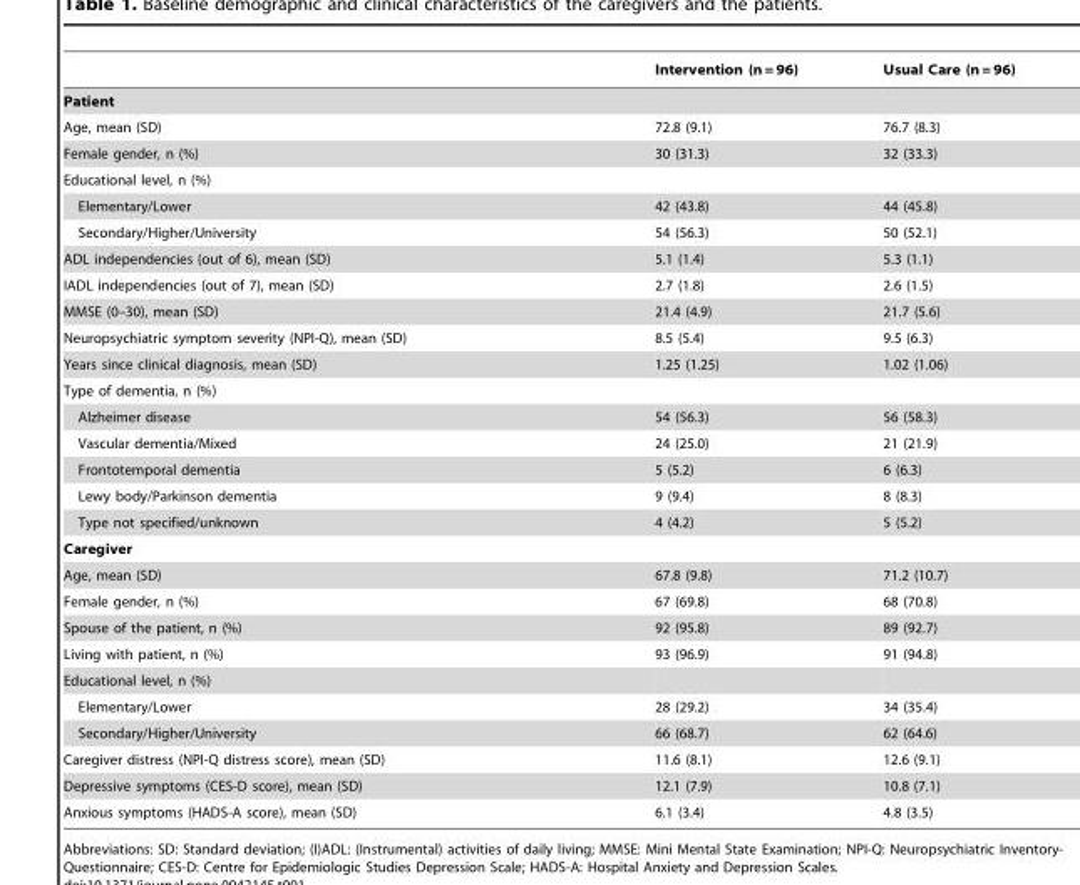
<table><thead><tr><td></td><td>Intervention (n = 96)</td><td>Usual Care (n = 96)</td></tr></thead><tbody><tr><td colspan="3">Patient</td></tr><tr><td>Age, mean (SD)</td><td>72.8 (9.1)</td><td>76.7 (8.3)</td></tr><tr><td>Female gender, n (%)</td><td>30 (31.3)</td><td>32 (33.3)</td></tr><tr><td colspan="3">Educational level, n (%)</td></tr><tr><td>Elementary/Lower</td><td>42 (43.8)</td><td>44 (45.8)</td></tr><tr><td>Secondary/Higher/University</td><td>54 (56.3)</td><td>50 (52.1)</td></tr><tr><td>ADL independencies (out of 6), mean (SD)</td><td>5.1 (1.4)</td><td>5.3 (1.1)</td></tr><tr><td>IADL independencies (out of 7), mean (SD)</td><td>2.7 (1.8)</td><td>2.6 (1.5)</td></tr><tr><td>MMSE (0–30), mean (SD)</td><td>21.4 (4.9)</td><td>21.7 (5.6)</td></tr><tr><td>Neuropsychiatric symptom severity (NPI-Q), mean (SD)</td><td>8.5 (5.4)</td><td>9.5 (6.3)</td></tr><tr><td>Years since clinical diagnosis, mean (SD)</td><td>1.25 (1.25)</td><td>1.02 (1.06)</td></tr><tr><td colspan="3">Type of dementia, n (%)</td></tr><tr><td>Alzheimer disease</td><td>54 (56.3)</td><td>56 (58.3)</td></tr><tr><td>Vascular dementia/Mixed</td><td>24 (25.0)</td><td>21 (21.9)</td></tr><tr><td>Frontotemporal dementia</td><td>5 (5.2)</td><td>6 (6.3)</td></tr><tr><td>Lewy body/Parkinson dementia</td><td>9 (9.4)</td><td>8 (8.3)</td></tr><tr><td>Type not specified/unknown</td><td>4 (4.2)</td><td>5 (5.2)</td></tr><tr><td colspan="3">Caregiver</td></tr><tr><td>Age, mean (SD)</td><td>67.8 (9.8)</td><td>71.2 (10.7)</td></tr><tr><td>Female gender, n (%)</td><td>67 (69.8)</td><td>68 (70.8)</td></tr><tr><td>Spouse of the patient, n (%)</td><td>92 (95.8)</td><td>89 (92.7)</td></tr><tr><td>Living with patient, n (%)</td><td>93 (96.9)</td><td>91 (94.8)</td></tr><tr><td colspan="3">Educational level, n (%)</td></tr><tr><td>Elementary/Lower</td><td>28 (29.2)</td><td>34 (35.4)</td></tr><tr><td>Secondary/Higher/University</td><td>66 (68.7)</td><td>62 (64.6)</td></tr><tr><td>Caregiver distress (NPI-Q distress score), mean (SD)</td><td>11.6 (8.1)</td><td>12.6 (9.1)</td></tr><tr><td>Depressive symptoms (CES-D score), mean (SD)</td><td>12.1 (7.9)</td><td>10.8 (7.1)</td></tr><tr><td>Anxious symptoms (HADS-A score), mean (SD)</td><td>6.1 (3.4)</td><td>4.8 (3.5)</td></tr></tbody></table>